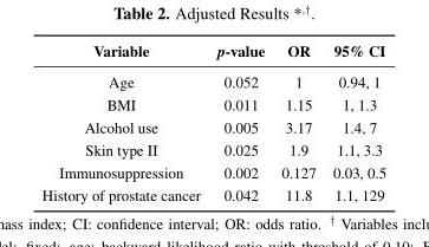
<table><thead><tr><td>Variable</td><td>p-value</td><td>OR</td><td>95% CI</td></tr></thead><tbody><tr><td>Age</td><td>0.052</td><td>1</td><td>0.94, 1</td></tr><tr><td>BMI</td><td>0.011</td><td>1.15</td><td>1, 1.3</td></tr><tr><td>Alcohol use</td><td>0.005</td><td>3.17</td><td>1.4, 7</td></tr><tr><td>Skin type II</td><td>0.025</td><td>1.9</td><td>1.1, 3.3</td></tr><tr><td>Immunosuppression</td><td>0.002</td><td>0.127</td><td>0.03, 0.5</td></tr><tr><td>History of prostate cancer</td><td>0.042</td><td>11.8</td><td>1.1, 129</td></tr></tbody></table>